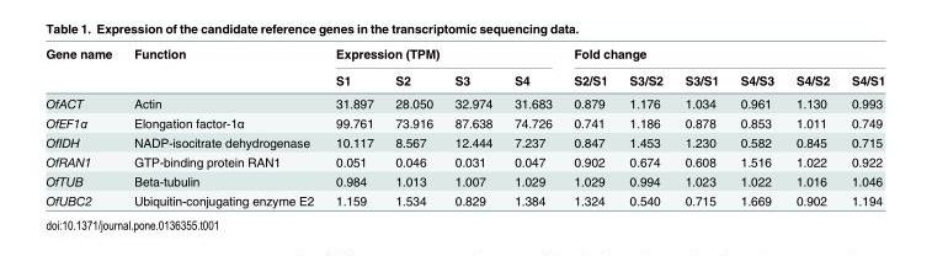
<table><thead><tr><td rowspan="2">Gene name</td><td rowspan="2">Function</td><td colspan="4">Expression (TPM)</td><td colspan="6">Fold change</td></tr><tr><td>S1</td><td>S2</td><td>S3</td><td>S4</td><td>S2/S1</td><td>S3/S2</td><td>S3/S1</td><td>S4/S3</td><td>S4/S2</td><td>S4/S1</td></tr></thead><tbody><tr><td>OfACT</td><td>Actin</td><td>31.897</td><td>28.050</td><td>32.974</td><td>31.683</td><td>0.879</td><td>1.176</td><td>1.034</td><td>0.961</td><td>1.130</td><td>0.993</td></tr><tr><td>OfEF1α</td><td>Elongation factor-1α</td><td>99.761</td><td>73.916</td><td>87.638</td><td>74.726</td><td>0.741</td><td>1.186</td><td>0.878</td><td>0.853</td><td>1.011</td><td>0.749</td></tr><tr><td>OfIDH</td><td>NADP-isocitrate dehydrogenase</td><td>10.117</td><td>8.567</td><td>12.444</td><td>7.237</td><td>0.847</td><td>1.453</td><td>1.230</td><td>0.582</td><td>0.845</td><td>0.715</td></tr><tr><td>OfRAN1</td><td>GTP-binding protein RAN1</td><td>0.051</td><td>0.046</td><td>0.031</td><td>0.047</td><td>0.902</td><td>0.674</td><td>0.608</td><td>1.516</td><td>1.022</td><td>0.922</td></tr><tr><td>OfTUB</td><td>Beta-tubulin</td><td>0.984</td><td>1.013</td><td>1.007</td><td>1.029</td><td>1.029</td><td>0.994</td><td>1.023</td><td>1.022</td><td>1.016</td><td>1.046</td></tr><tr><td>OfUBC2</td><td>Ubiquitin-conjugating enzyme E2</td><td>1.159</td><td>1.534</td><td>0.829</td><td>1.384</td><td>1.324</td><td>0.540</td><td>0.715</td><td>1.669</td><td>0.902</td><td>1.194</td></tr></tbody></table>